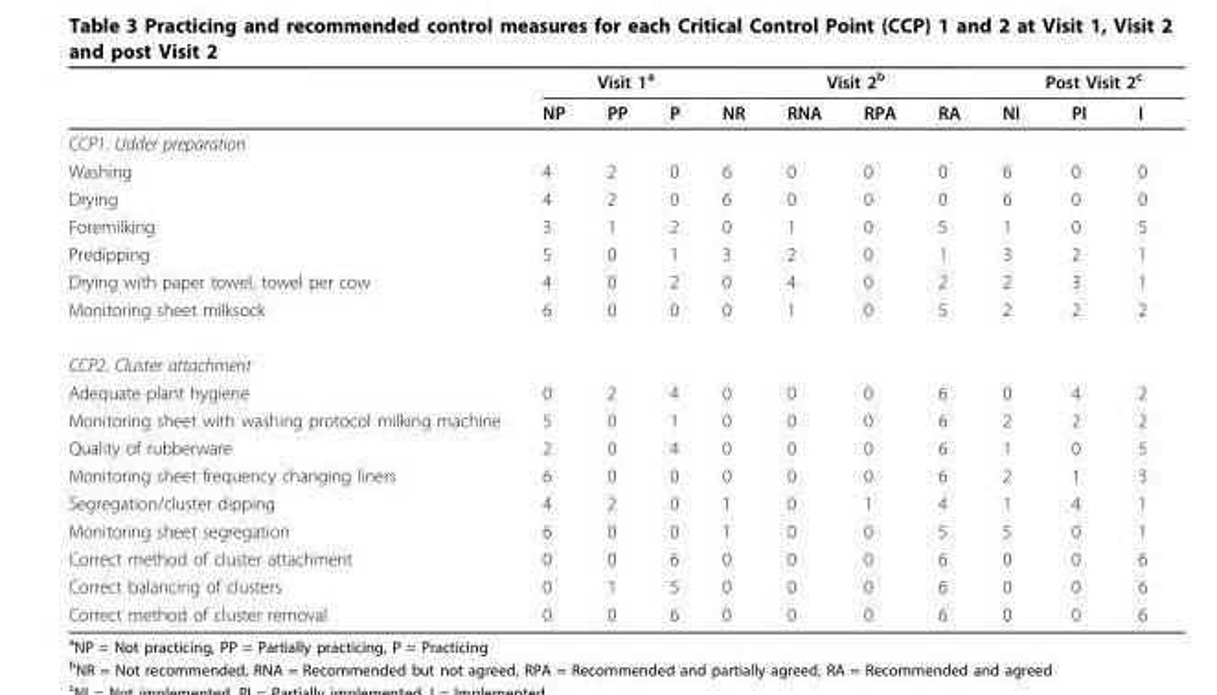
<table><thead><tr><td rowspan="2"></td><td colspan="3">Visit 1<sup>a</sup></td><td colspan="4">Visit 2<sup>b</sup></td><td colspan="3">Post Visit 2<sup>c</sup></td></tr><tr><td>NP</td><td>PP</td><td>P</td><td>NR</td><td>RNA</td><td>RPA</td><td>RA</td><td>NI</td><td>PI</td><td>I</td></tr></thead><tbody><tr><td colspan="11">CCP1. Udder preparation</td></tr><tr><td>Washing</td><td>4</td><td>2</td><td>0</td><td>6</td><td>0</td><td>0</td><td>0</td><td>6</td><td>0</td><td>0</td></tr><tr><td>Drying</td><td>4</td><td>2</td><td>0</td><td>6</td><td>0</td><td>0</td><td>0</td><td>6</td><td>0</td><td>0</td></tr><tr><td>Foremilking</td><td>3</td><td>1</td><td>2</td><td>0</td><td>1</td><td>0</td><td>5</td><td>1</td><td>0</td><td>5</td></tr><tr><td>Predipping</td><td>5</td><td>0</td><td>1</td><td>3</td><td>2</td><td>0</td><td>1</td><td>3</td><td>2</td><td>1</td></tr><tr><td>Drying with paper towel, towel per cow</td><td>4</td><td>0</td><td>2</td><td>0</td><td>4</td><td>0</td><td>2</td><td>2</td><td>3</td><td>1</td></tr><tr><td>Monitoring sheet milksock</td><td>6</td><td>0</td><td>0</td><td>0</td><td>1</td><td>0</td><td>5</td><td>2</td><td>2</td><td>2</td></tr><tr><td colspan="11">CCP2. Cluster attachment</td></tr><tr><td>Adequate plant hygiene</td><td>0</td><td>2</td><td>4</td><td>0</td><td>0</td><td>0</td><td>6</td><td>0</td><td>4</td><td>2</td></tr><tr><td>Monitoring sheet with washing protocol milking machine</td><td>5</td><td>0</td><td>1</td><td>0</td><td>0</td><td>0</td><td>6</td><td>2</td><td>2</td><td>2</td></tr><tr><td>Quality of rubberware</td><td>2</td><td>0</td><td>4</td><td>0</td><td>0</td><td>0</td><td>6</td><td>1</td><td>0</td><td>5</td></tr><tr><td>Monitoring sheet frequency changing liners</td><td>6</td><td>0</td><td>0</td><td>0</td><td>0</td><td>0</td><td>6</td><td>2</td><td>1</td><td>3</td></tr><tr><td>Segregation/cluster dipping</td><td>4</td><td>2</td><td>0</td><td>1</td><td>0</td><td>1</td><td>4</td><td>1</td><td>4</td><td>1</td></tr><tr><td>Monitoring sheet segregation</td><td>6</td><td>0</td><td>0</td><td>1</td><td>0</td><td>0</td><td>5</td><td>5</td><td>0</td><td>1</td></tr><tr><td>Correct method of cluster attachment</td><td>0</td><td>0</td><td>6</td><td>0</td><td>0</td><td>0</td><td>6</td><td>0</td><td>0</td><td>6</td></tr><tr><td>Correct balancing of clusters</td><td>0</td><td>1</td><td>5</td><td>0</td><td>0</td><td>0</td><td>6</td><td>0</td><td>0</td><td>6</td></tr><tr><td>Correct method of cluster removal</td><td>0</td><td>0</td><td>6</td><td>0</td><td>0</td><td>0</td><td>6</td><td>0</td><td>0</td><td>6</td></tr></tbody></table>